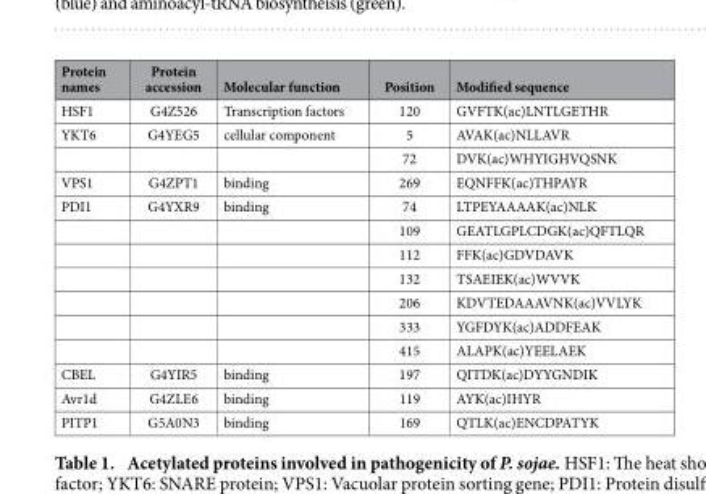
<table><thead><tr><td>Protein names</td><td>Protein accession</td><td>Molecular function</td><td>Position</td><td>Modified sequence</td></tr></thead><tbody><tr><td>HSF1</td><td>G4Z526</td><td>Transcription factors</td><td>120</td><td>GVFTK(ac)LNTLGETHR</td></tr><tr><td rowspan="2">YKT6</td><td>G4YEG5</td><td>cellular component</td><td>5</td><td>AVAK(ac)NLLAVR</td></tr><tr><td></td><td></td><td>72</td><td>DVK(ac)WHYIGHVQSNK</td></tr><tr><td>VPS1</td><td>G4ZPT1</td><td>binding</td><td>269</td><td>EQNFFK(ac)THPAYR</td></tr><tr><td rowspan="7">PDI1</td><td>G4YXR9</td><td>binding</td><td>74</td><td>LTPEYAAAAK(ac)NLK</td></tr><tr><td></td><td></td><td>109</td><td>GEATLGPLCDGK(ac)QFTLQR</td></tr><tr><td></td><td></td><td>112</td><td>FFK(ac)GDVDAVK</td></tr><tr><td></td><td></td><td>132</td><td>TSAEIEK(ac)WVVK</td></tr><tr><td></td><td></td><td>206</td><td>KDVTEDAAAVNK(ac)VVLYK</td></tr><tr><td></td><td></td><td>333</td><td>YGFDYK(ac)ADDFEAK</td></tr><tr><td></td><td></td><td>415</td><td>ALAPK(ac)YEELAEK</td></tr><tr><td>CBEL</td><td>G4YIR5</td><td>binding</td><td>197</td><td>QITDK(ac)DYYGNDIK</td></tr><tr><td>Avr1d</td><td>G4ZLE6</td><td>binding</td><td>119</td><td>AYK(ac)IHYR</td></tr><tr><td>PITP1</td><td>G5A0N3</td><td>binding</td><td>169</td><td>QTLK(ac)ENCDPATYK</td></tr></tbody></table>